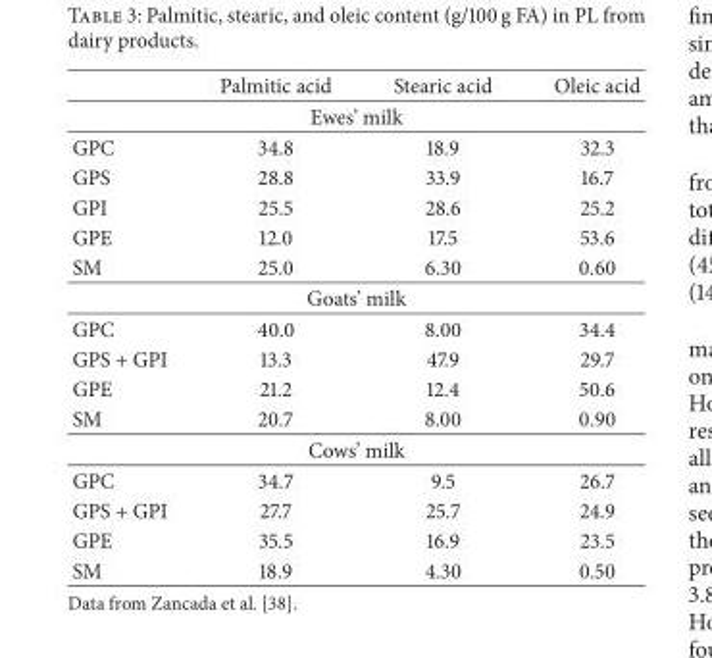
<table><thead><tr><td></td><td>Palmitic acid</td><td>Stearic acid</td><td>Oleic acid</td></tr></thead><tbody><tr><td colspan="4">Ewes’ milk</td></tr><tr><td>GPC</td><td>34.8</td><td>18.9</td><td>32.3</td></tr><tr><td>GPS</td><td>28.8</td><td>33.9</td><td>16.7</td></tr><tr><td>GPI</td><td>25.5</td><td>28.6</td><td>25.2</td></tr><tr><td>GPE</td><td>12.0</td><td>17.5</td><td>53.6</td></tr><tr><td>SM</td><td>25.0</td><td>6.30</td><td>0.60</td></tr><tr><td colspan="4">Goats’ milk</td></tr><tr><td>GPC</td><td>40.0</td><td>8.00</td><td>34.4</td></tr><tr><td>GPS + GPI</td><td>13.3</td><td>47.9</td><td>29.7</td></tr><tr><td>GPE</td><td>21.2</td><td>12.4</td><td>50.6</td></tr><tr><td>SM</td><td>20.7</td><td>8.00</td><td>0.90</td></tr><tr><td colspan="4">Cows’ milk</td></tr><tr><td>GPC</td><td>34.7</td><td>9.5</td><td>26.7</td></tr><tr><td>GPS + GPI</td><td>27.7</td><td>25.7</td><td>24.9</td></tr><tr><td>GPE</td><td>35.5</td><td>16.9</td><td>23.5</td></tr><tr><td>SM</td><td>18.9</td><td>4.30</td><td>0.50</td></tr></tbody></table>